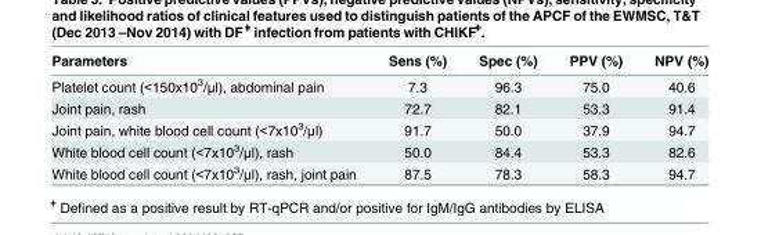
<table><thead><tr><td>Parameters</td><td>Sens (%)</td><td>Spec (%)</td><td>PPV (%)</td><td>NPV (%)</td></tr></thead><tbody><tr><td>Platelet count (&lt;150x10<sup>3</sup>/μl), abdominal pain</td><td>7.3</td><td>96.3</td><td>75.0</td><td>40.6</td></tr><tr><td>Joint pain, rash</td><td>72.7</td><td>82.1</td><td>53.3</td><td>91.4</td></tr><tr><td>Joint pain, white blood cell count (&lt;7x10<sup>3</sup>/μl)</td><td>91.7</td><td>50.0</td><td>37.9</td><td>94.7</td></tr><tr><td>White blood cell count (&lt;7x10<sup>3</sup>/μl), rash</td><td>50.0</td><td>84.4</td><td>53.3</td><td>82.6</td></tr><tr><td>White blood cell count (&lt;7x10<sup>3</sup>/μl), rash, joint pain</td><td>87.5</td><td>78.3</td><td>58.3</td><td>94.7</td></tr></tbody></table>